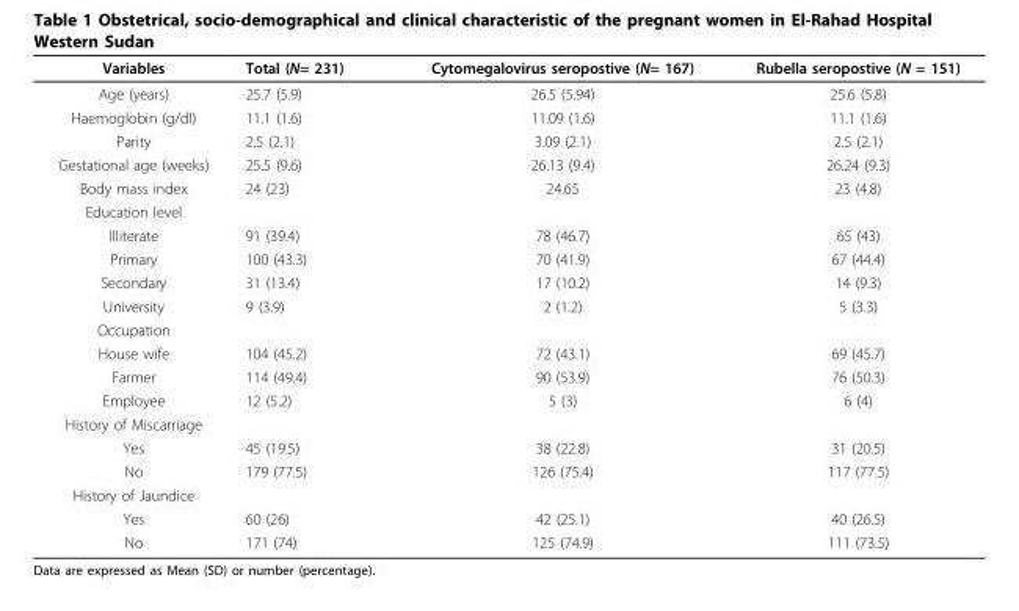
<table><thead><tr><td>Variables</td><td>Total (N= 231)</td><td>Cytomegalovirus seropostive (N= 167)</td><td>Rubella seropostive (N = 151)</td></tr></thead><tbody><tr><td>Age (years)</td><td>25.7 (5.9)</td><td>26.5 (5.94)</td><td>25.6 (5.8)</td></tr><tr><td>Haemoglobin (g/dl)</td><td>11.1 (1.6)</td><td>11.09 (1.6)</td><td>11.1 (1.6)</td></tr><tr><td>Parity</td><td>2.5 (2.1)</td><td>3.09 (2.1)</td><td>2.5 (2.1)</td></tr><tr><td>Gestational age (weeks)</td><td>25.5 (9.6)</td><td>26.13 (9.4)</td><td>26.24 (9.3)</td></tr><tr><td>Body mass index</td><td>24 (23)</td><td>24.65</td><td>23 (4.8)</td></tr><tr><td colspan="4">Education level</td></tr><tr><td>Illiterate</td><td>91 (39.4)</td><td>78 (46.7)</td><td>65 (43)</td></tr><tr><td>Primary</td><td>100 (43.3)</td><td>70 (41.9)</td><td>67 (44.4)</td></tr><tr><td>Secondary</td><td>31 (13.4)</td><td>17 (10.2)</td><td>14 (9.3)</td></tr><tr><td>University</td><td>9 (3.9)</td><td>2 (1.2)</td><td>5 (3.3)</td></tr><tr><td colspan="4">Occupation</td></tr><tr><td>House wife</td><td>104 (45.2)</td><td>72 (43.1)</td><td>69 (45.7)</td></tr><tr><td>Farmer</td><td>114 (49.4)</td><td>90 (53.9)</td><td>76 (50.3)</td></tr><tr><td>Employee</td><td>12 (5.2)</td><td>5 (3)</td><td>6 (4)</td></tr><tr><td colspan="4">History of Miscarriage</td></tr><tr><td>Yes</td><td>45 (19.5)</td><td>38 (22.8)</td><td>31 (20.5)</td></tr><tr><td>No</td><td>179 (77.5)</td><td>126 (75.4)</td><td>117 (77.5)</td></tr><tr><td colspan="4">History of Jaundice</td></tr><tr><td>Yes</td><td>60 (26)</td><td>42 (25.1)</td><td>40 (26.5)</td></tr><tr><td>No</td><td>171 (74)</td><td>125 (74.9)</td><td>111 (73.5)</td></tr></tbody></table>